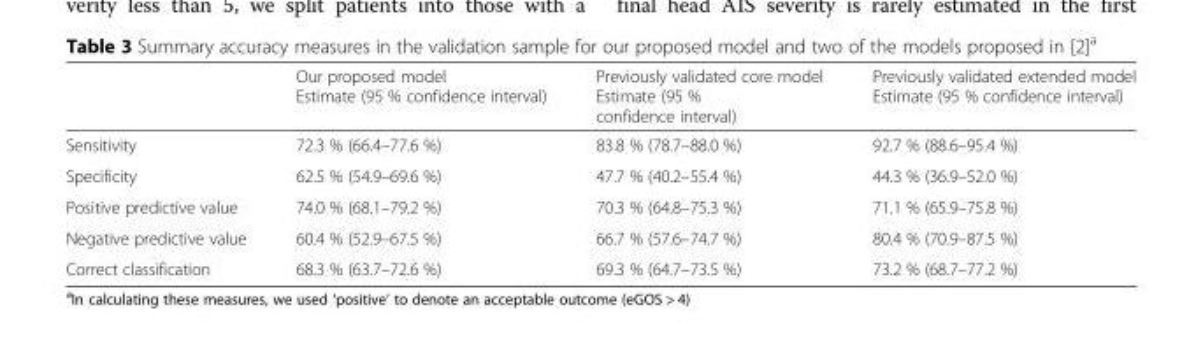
<table><thead><tr><td></td><td>Our proposed model Estimate (95 % confidence interval)</td><td>Previously validated core model Estimate (95 % confidence interval)</td><td>Previously validated extended model Estimate (95 % confidence interval)</td></tr></thead><tbody><tr><td>Sensitivity</td><td>72.3 % (66.4–77.6 %)</td><td>83.8 % (78.7–88.0 %)</td><td>92.7 % (88.6–95.4 %)</td></tr><tr><td>Specificity</td><td>62.5 % (54.9–69.6 %)</td><td>47.7 % (40.2–55.4 %)</td><td>44.3 % (36.9–52.0 %)</td></tr><tr><td>Positive predictive value</td><td>74.0 % (68.1–79.2 %)</td><td>70.3 % (64.8–75.3 %)</td><td>71.1 % (65.9–75.8 %)</td></tr><tr><td>Negative predictive value</td><td>60.4 % (52.9–67.5 %)</td><td>66.7 % (57.6–74.7 %)</td><td>80.4 % (70.9–87.5 %)</td></tr><tr><td>Correct classification</td><td>68.3 % (63.7–72.6 %)</td><td>69.3 % (64.7–73.5 %)</td><td>73.2 % (68.7–77.2 %)</td></tr></tbody></table>